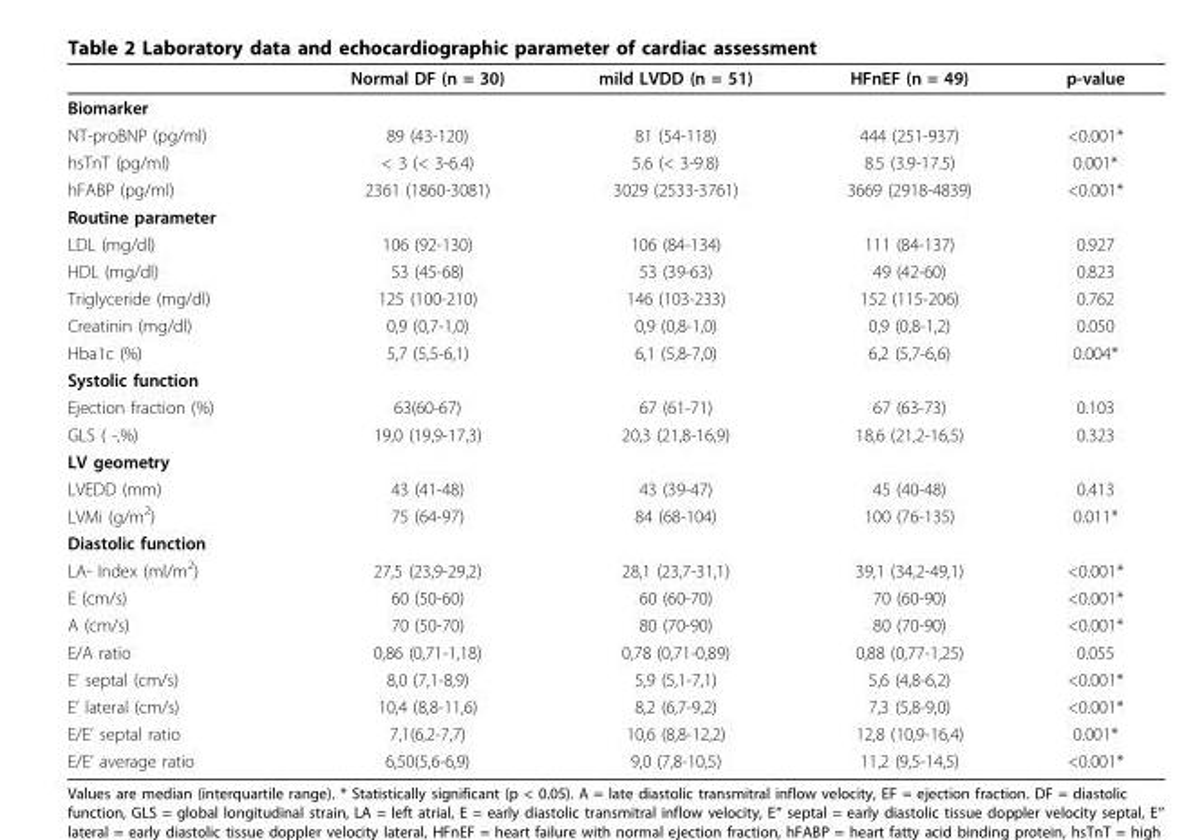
<table><thead><tr><td></td><td>Normal DF (n = 30)</td><td>mild LVDD (n = 51)</td><td>HFnEF (n = 49)</td><td>p-value</td></tr></thead><tbody><tr><td colspan="5">Biomarker</td></tr><tr><td>NT-proBNP (pg/ml)</td><td>89 (43-120)</td><td>81 (54-118)</td><td>444 (251-937)</td><td>&lt;0.001*</td></tr><tr><td>hsTnT (pg/ml)</td><td>&lt; 3 (&lt; 3-6.4)</td><td>5.6 (&lt; 3-9.8)</td><td>8.5 (3.9-17.5)</td><td>0.001*</td></tr><tr><td>hFABP (pg/ml)</td><td>2361 (1860-3081)</td><td>3029 (2533-3761)</td><td>3669 (2918-4839)</td><td>&lt;0.001*</td></tr><tr><td colspan="5">Routine parameter</td></tr><tr><td>LDL (mg/dl)</td><td>106 (92-130)</td><td>106 (84-134)</td><td>111 (84-137)</td><td>0.927</td></tr><tr><td>HDL (mg/dl)</td><td>53 (45-68)</td><td>53 (39-63)</td><td>49 (42-60)</td><td>0.823</td></tr><tr><td>Triglyceride (mg/dl)</td><td>125 (100-210)</td><td>146 (103-233)</td><td>152 (115-206)</td><td>0.762</td></tr><tr><td>Creatinin (mg/dl)</td><td>0,9 (0,7-1,0)</td><td>0,9 (0,8-1,0)</td><td>0,9 (0,8-1,2)</td><td>0.050</td></tr><tr><td>Hba1c (%)</td><td>5,7 (5,5-6,1)</td><td>6,1 (5,8-7,0)</td><td>6,2 (5,7-6,6)</td><td>0.004*</td></tr><tr><td colspan="5">Systolic function</td></tr><tr><td>Ejection fraction (%)</td><td>63(60-67)</td><td>67 (61-71)</td><td>67 (63-73)</td><td>0.103</td></tr><tr><td>GLS ( -,%)</td><td>19,0 (19,9-17,3)</td><td>20,3 (21,8-16,9)</td><td>18,6 (21,2-16,5)</td><td>0.323</td></tr><tr><td colspan="5">LV geometry</td></tr><tr><td>LVEDD (mm)</td><td>43 (41-48)</td><td>43 (39-47)</td><td>45 (40-48)</td><td>0.413</td></tr><tr><td>LVMi (g/m<sup>2</sup>)</td><td>75 (64-97)</td><td>84 (68-104)</td><td>100 (76-135)</td><td>0.011*</td></tr><tr><td colspan="5">Diastolic function</td></tr><tr><td>LA- Index (ml/m<sup>2</sup>)</td><td>27,5 (23,9-29,2)</td><td>28,1 (23,7-31,1)</td><td>39,1 (34,2-49,1)</td><td>&lt;0.001*</td></tr><tr><td>E (cm/s)</td><td>60 (50-60)</td><td>60 (60-70)</td><td>70 (60-90)</td><td>&lt;0.001*</td></tr><tr><td>A (cm/s)</td><td>70 (50-70)</td><td>80 (70-90)</td><td>80 (70-90)</td><td>&lt;0.001*</td></tr><tr><td>E/A ratio</td><td>0,86 (0,71-1,18)</td><td>0,78 (0,71-0,89)</td><td>0,88 (0,77-1,25)</td><td>0.055</td></tr><tr><td>E’ septal (cm/s)</td><td>8,0 (7,1-8,9)</td><td>5,9 (5,1-7,1)</td><td>5,6 (4,8-6,2)</td><td>&lt;0.001*</td></tr><tr><td>E’ lateral (cm/s)</td><td>10,4 (8,8-11,6)</td><td>8,2 (6,7-9,2)</td><td>7,3 (5,8-9,0)</td><td>&lt;0.001*</td></tr><tr><td>E/E’ septal ratio</td><td>7,1(6,2-7,7)</td><td>10,6 (8,8-12,2)</td><td>12,8 (10,9-16,4)</td><td>0.001*</td></tr><tr><td>E/E’ average ratio</td><td>6,50(5,6-6,9)</td><td>9,0 (7,8-10,5)</td><td>11,2 (9,5-14,5)</td><td>&lt;0.001*</td></tr></tbody></table>